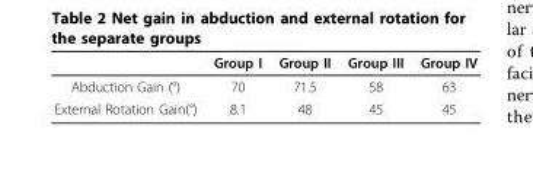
<table><thead><tr><td></td><td>Group I</td><td>Group II</td><td>Group III</td><td>Group IV</td></tr></thead><tbody><tr><td>Abduction Gain (°)</td><td>70</td><td>71.5</td><td>58</td><td>63</td></tr><tr><td>External Rotation Gain(°)</td><td>8.1</td><td>48</td><td>45</td><td>45</td></tr></tbody></table>